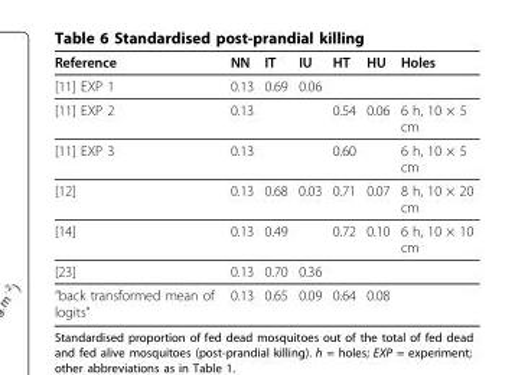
<table><thead><tr><td>Reference</td><td>NN</td><td>IT</td><td>IU</td><td>HT</td><td>HU</td><td>Holes</td></tr></thead><tbody><tr><td>[11] EXP 1</td><td>0.13</td><td>0.69</td><td>0.06</td><td></td><td></td><td></td></tr><tr><td>[11] EXP 2</td><td>0.13</td><td></td><td></td><td>0.54</td><td>0.06</td><td>6 h, 10 × 5 cm</td></tr><tr><td>[11] EXP 3</td><td>0.13</td><td></td><td></td><td>0.60</td><td></td><td>6 h, 10 × 5 cm</td></tr><tr><td>[12]</td><td>0.13</td><td>0.68</td><td>0.03</td><td>0.71</td><td>0.07</td><td>8 h, 10 × 20 cm</td></tr><tr><td>[14]</td><td>0.13</td><td>0.49</td><td></td><td>0.72</td><td>0.10</td><td>6 h, 10 × 10 cm</td></tr><tr><td>[23]</td><td>0.13</td><td>0.70</td><td>0.36</td><td></td><td></td><td></td></tr><tr><td>“back transformed mean of logits”</td><td>0.13</td><td>0.65</td><td>0.09</td><td>0.64</td><td>0.08</td><td></td></tr></tbody></table>